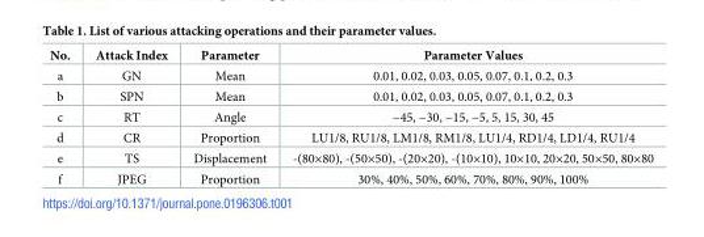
<table><thead><tr><td>No.</td><td>Attack Index</td><td>Parameter</td><td>Parameter Values</td></tr></thead><tbody><tr><td>a</td><td>GN</td><td>Mean</td><td>0.01, 0.02, 0.03, 0.05, 0.07, 0.1, 0.2, 0.3</td></tr><tr><td>b</td><td>SPN</td><td>Mean</td><td>0.01, 0.02, 0.03, 0.05, 0.07, 0.1, 0.2, 0.3</td></tr><tr><td>c</td><td>RT</td><td>Angle</td><td>−45, −30, −15, −5, 5, 15, 30, 45</td></tr><tr><td>d</td><td>CR</td><td>Proportion</td><td>LU1/8, RU1/8, LM1/8, RM1/8, LU1/4, RD1/4, LD1/4, RU1/4</td></tr><tr><td>e</td><td>TS</td><td>Displacement</td><td>-(80×80), -(50×50), -(20×20), -(10×10), 10×10, 20×20, 50×50, 80×80</td></tr><tr><td>f</td><td>JPEG</td><td>Proportion</td><td>30%, 40%, 50%, 60%, 70%, 80%, 90%, 100%</td></tr></tbody></table>